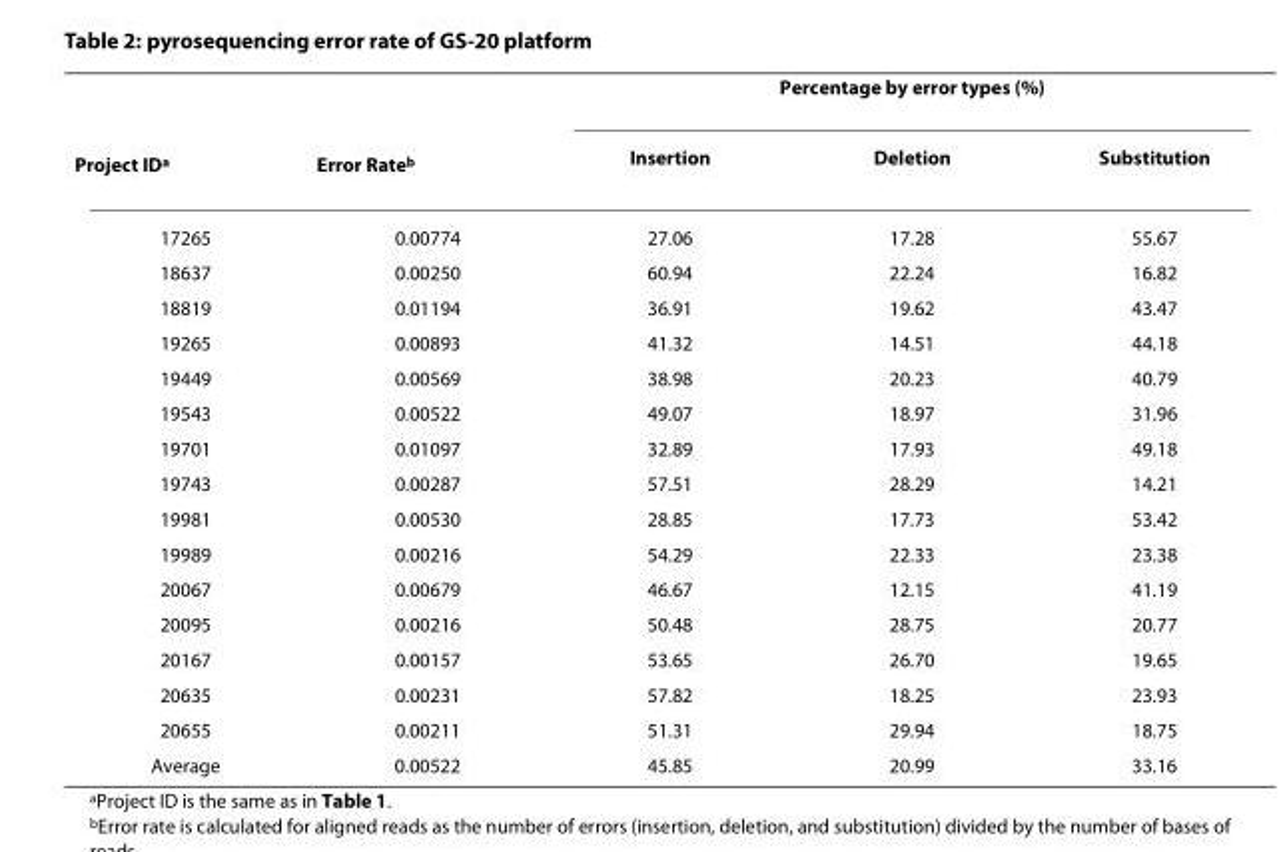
<table><thead><tr><td rowspan="2">Project ID<sup>a</sup></td><td rowspan="2">Error Rate<sup>b</sup></td><td colspan="3">Percentage by error types (%)</td></tr><tr><td>Insertion</td><td>Deletion</td><td>Substitution</td></tr></thead><tbody><tr><td>17265</td><td>0.00774</td><td>27.06</td><td>17.28</td><td>55.67</td></tr><tr><td>18637</td><td>0.00250</td><td>60.94</td><td>22.24</td><td>16.82</td></tr><tr><td>18819</td><td>0.01194</td><td>36.91</td><td>19.62</td><td>43.47</td></tr><tr><td>19265</td><td>0.00893</td><td>41.32</td><td>14.51</td><td>44.18</td></tr><tr><td>19449</td><td>0.00569</td><td>38.98</td><td>20.23</td><td>40.79</td></tr><tr><td>19543</td><td>0.00522</td><td>49.07</td><td>18.97</td><td>31.96</td></tr><tr><td>19701</td><td>0.01097</td><td>32.89</td><td>17.93</td><td>49.18</td></tr><tr><td>19743</td><td>0.00287</td><td>57.51</td><td>28.29</td><td>14.21</td></tr><tr><td>19981</td><td>0.00530</td><td>28.85</td><td>17.73</td><td>53.42</td></tr><tr><td>19989</td><td>0.00216</td><td>54.29</td><td>22.33</td><td>23.38</td></tr><tr><td>20067</td><td>0.00679</td><td>46.67</td><td>12.15</td><td>41.19</td></tr><tr><td>20095</td><td>0.00216</td><td>50.48</td><td>28.75</td><td>20.77</td></tr><tr><td>20167</td><td>0.00157</td><td>53.65</td><td>26.70</td><td>19.65</td></tr><tr><td>20635</td><td>0.00231</td><td>57.82</td><td>18.25</td><td>23.93</td></tr><tr><td>20655</td><td>0.00211</td><td>51.31</td><td>29.94</td><td>18.75</td></tr><tr><td>Average</td><td>0.00522</td><td>45.85</td><td>20.99</td><td>33.16</td></tr></tbody></table>